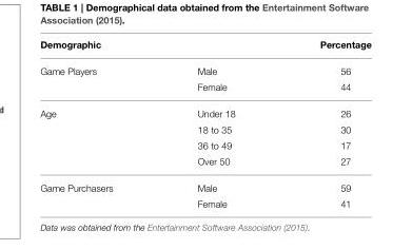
<table><thead><tr><td colspan="2">Demographic</td><td rowspan="2">Percentage 56</td></tr><tr><td>Game Players</td><td>Male</td></tr></thead><tbody><tr><td></td><td>Female</td><td>44</td></tr><tr><td rowspan="4">Age</td><td>Under 18</td><td>26</td></tr><tr><td>18 to 35</td><td>30</td></tr><tr><td>36 to 49</td><td>17</td></tr><tr><td>Over 50</td><td>27</td></tr><tr><td rowspan="2">Game Purchasers</td><td>Male</td><td>59</td></tr><tr><td>Female</td><td>41</td></tr></tbody></table>